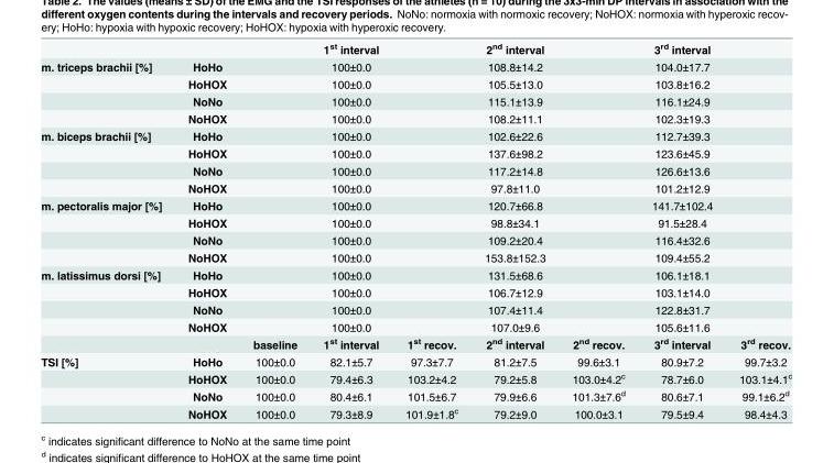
<table><thead><tr><td></td><td></td><td></td><td>1<sup>st</sup> interval</td><td></td><td>2<sup>nd</sup> interval</td><td></td><td>3<sup>rd</sup> interval</td><td></td></tr></thead><tbody><tr><td rowspan="4">m. triceps brachii [%]</td><td>HoHo</td><td></td><td>100±0.0</td><td></td><td>108.8±14.2</td><td></td><td>104.0±17.7</td><td></td></tr><tr><td>HoHOX</td><td></td><td>100±0.0</td><td></td><td>105.5±13.0</td><td></td><td>103.8±16.2</td><td></td></tr><tr><td>NoNo</td><td></td><td>100±0.0</td><td></td><td>115.1±13.9</td><td></td><td>116.1±24.9</td><td></td></tr><tr><td>NoHOX</td><td></td><td>100±0.0</td><td></td><td>108.2±11.1</td><td></td><td>102.3±19.3</td><td></td></tr><tr><td rowspan="4">m. biceps brachii [%]</td><td>HoHo</td><td></td><td>100±0.0</td><td></td><td>102.6±22.6</td><td></td><td>112.7±39.3</td><td></td></tr><tr><td>HoHOX</td><td></td><td>100±0.0</td><td></td><td>137.6±98.2</td><td></td><td>123.6±45.9</td><td></td></tr><tr><td>NoNo</td><td></td><td>100±0.0</td><td></td><td>117.2±14.8</td><td></td><td>126.6±13.6</td><td></td></tr><tr><td>NoHOX</td><td></td><td>100±0.0</td><td></td><td>97.8±11.0</td><td></td><td>101.2±12.9</td><td></td></tr><tr><td rowspan="4">m. pectoralis major [%]</td><td>HoHo</td><td></td><td>100±0.0</td><td></td><td>120.7±66.8</td><td></td><td>141.7±102.4</td><td></td></tr><tr><td>HoHOX</td><td></td><td>100±0.0</td><td></td><td>98.8±34.1</td><td></td><td>91.5±28.4</td><td></td></tr><tr><td>NoNo</td><td></td><td>100±0.0</td><td></td><td>109.2±20.4</td><td></td><td>116.4±32.6</td><td></td></tr><tr><td>NoHOX</td><td></td><td>100±0.0</td><td></td><td>153.8±152.3</td><td></td><td>109.4±55.2</td><td></td></tr><tr><td rowspan="5">m. latissimus dorsi [%]</td><td>HoHo</td><td></td><td>100±0.0</td><td></td><td>131.5±68.6</td><td></td><td>106.1±18.1</td><td></td></tr><tr><td>HoHOX</td><td></td><td>100±0.0</td><td></td><td>106.7±12.9</td><td></td><td>103.1±14.0</td><td></td></tr><tr><td>NoNo</td><td></td><td>100±0.0</td><td></td><td>107.4±11.4</td><td></td><td>122.8±31.7</td><td></td></tr><tr><td>NoHOX</td><td></td><td>100±0.0</td><td></td><td>107.0±9.6</td><td></td><td>105.6±11.6</td><td></td></tr><tr><td></td><td>baseline</td><td>1<sup>st</sup> interval</td><td>1<sup>st</sup> recov.</td><td>2<sup>nd</sup> interval</td><td>2<sup>nd</sup> recov.</td><td>3<sup>rd</sup> interval</td><td>3<sup>rd</sup> recov.</td></tr><tr><td rowspan="4">TSI [%]</td><td>HoHo</td><td>100±0.0</td><td>82.1±5.7</td><td>97.3±7.7</td><td>81.2±7.5</td><td>99.6±3.1</td><td>80.9±7.2</td><td>99.7±3.2</td></tr><tr><td>HoHOX</td><td>100±0.0</td><td>79.4±6.3</td><td>103.2±4.2</td><td>79.2±5.8</td><td>103.0±4.2<sup>c</sup></td><td>78.7±6.0</td><td>103.1±4.1<sup>c</sup></td></tr><tr><td>NoNo</td><td>100±0.0</td><td>80.4±6.1</td><td>101.5±6.7</td><td>79.9±6.6</td><td>101.3±7.6<sup>d</sup></td><td>80.6±7.1</td><td>99.1±6.2<sup>d</sup></td></tr><tr><td>NoHOX</td><td>100±0.0</td><td>79.3±8.9</td><td>101.9±1.8<sup>c</sup></td><td>79.2±9.0</td><td>100.0±3.1</td><td>79.5±9.4</td><td>98.4±4.3</td></tr></tbody></table>